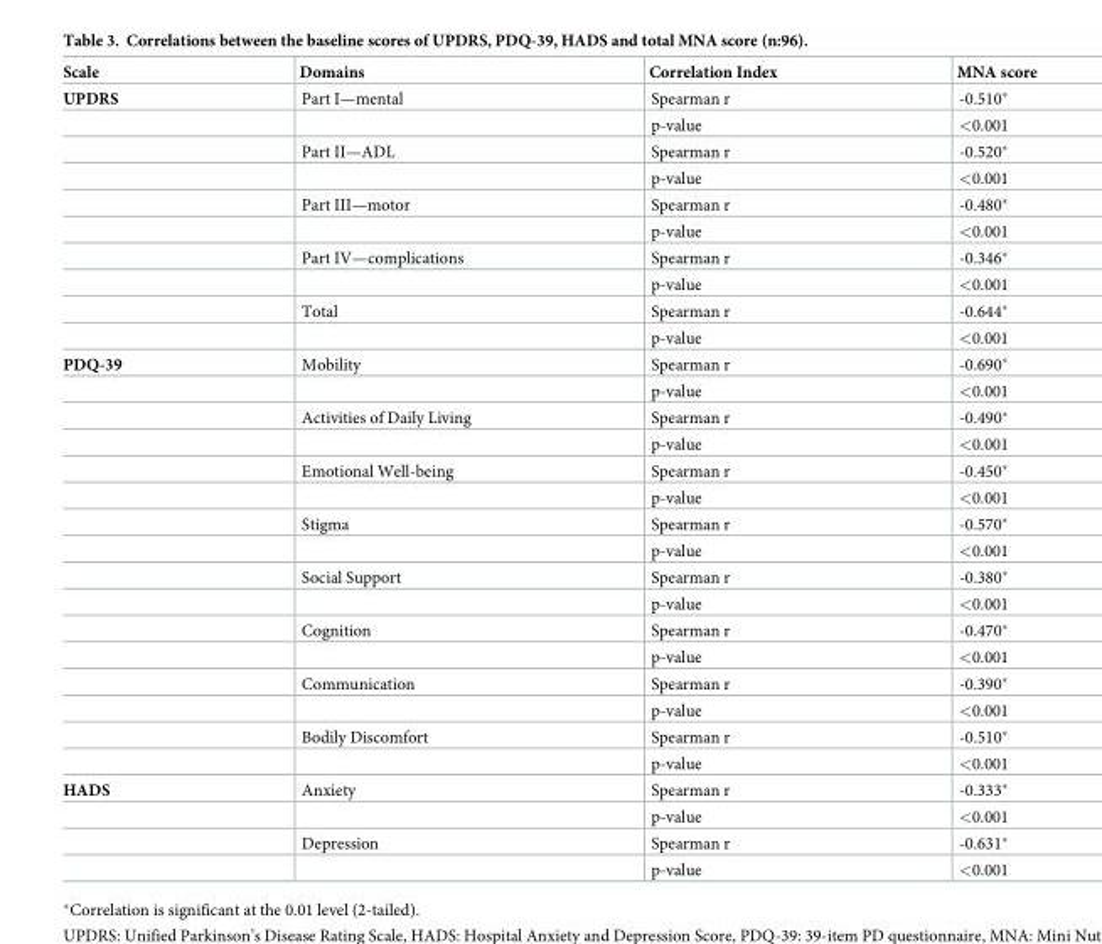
<table><thead><tr><td>Scale</td><td>Domains</td><td>Correlation Index</td><td>MNA score</td></tr></thead><tbody><tr><td rowspan="10">UPDRS</td><td>Part I—mental</td><td>Spearman r</td><td>-0.510*</td></tr><tr><td></td><td>p-value</td><td>&lt;0.001</td></tr><tr><td>Part II—ADL</td><td>Spearman r</td><td>-0.520*</td></tr><tr><td></td><td>p-value</td><td>&lt;0.001</td></tr><tr><td>Part III—motor</td><td>Spearman r</td><td>-0.480*</td></tr><tr><td></td><td>p-value</td><td>&lt;0.001</td></tr><tr><td>Part IV—complications</td><td>Spearman r</td><td>-0.346*</td></tr><tr><td></td><td>p-value</td><td>&lt;0.001</td></tr><tr><td>Total</td><td>Spearman r</td><td>-0.644*</td></tr><tr><td></td><td>p-value</td><td>&lt;0.001</td></tr><tr><td rowspan="16">PDQ-39</td><td>Mobility</td><td>Spearman r</td><td>-0.690*</td></tr><tr><td></td><td>p-value</td><td>&lt;0.001</td></tr><tr><td>Activities of Daily Living</td><td>Spearman r</td><td>-0.490*</td></tr><tr><td></td><td>p-value</td><td>&lt;0.001</td></tr><tr><td>Emotional Well-being</td><td>Spearman r</td><td>-0.450*</td></tr><tr><td></td><td>p-value</td><td>&lt;0.001</td></tr><tr><td>Stigma</td><td>Spearman r</td><td>-0.570*</td></tr><tr><td></td><td>p-value</td><td>&lt;0.001</td></tr><tr><td>Social Support</td><td>Spearman r</td><td>-0.380*</td></tr><tr><td></td><td>p-value</td><td>&lt;0.001</td></tr><tr><td>Cognition</td><td>Spearman r</td><td>-0.470*</td></tr><tr><td></td><td>p-value</td><td>&lt;0.001</td></tr><tr><td>Communication</td><td>Spearman r</td><td>-0.390*</td></tr><tr><td></td><td>p-value</td><td>&lt;0.001</td></tr><tr><td>Bodily Discomfort</td><td>Spearman r</td><td>-0.510*</td></tr><tr><td></td><td>p-value</td><td>&lt;0.001</td></tr><tr><td rowspan="4">HADS</td><td>Anxiety</td><td>Spearman r</td><td>-0.333*</td></tr><tr><td></td><td>p-value</td><td>&lt;0.001</td></tr><tr><td>Depression</td><td>Spearman r</td><td>-0.631*</td></tr><tr><td></td><td>p-value</td><td>&lt;0.001</td></tr></tbody></table>